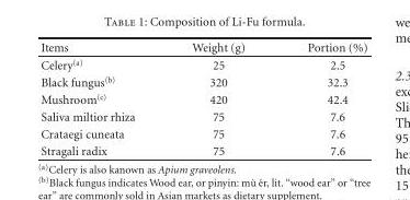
<table><thead><tr><td>Items</td><td>Weight (g)</td><td>Portion (%)</td></tr></thead><tbody><tr><td>Celery<sup>(a)</sup></td><td>25</td><td>2.5</td></tr><tr><td>Black fungus<sup>(b)</sup></td><td>320</td><td>32.3</td></tr><tr><td>Mushroom<sup>(c)</sup></td><td>420</td><td>42.4</td></tr><tr><td>Saliva miltior rhiza</td><td>75</td><td>7.6</td></tr><tr><td>Crataegi cuneata</td><td>75</td><td>7.6</td></tr><tr><td>Stragali radix</td><td>75</td><td>7.6</td></tr></tbody></table>